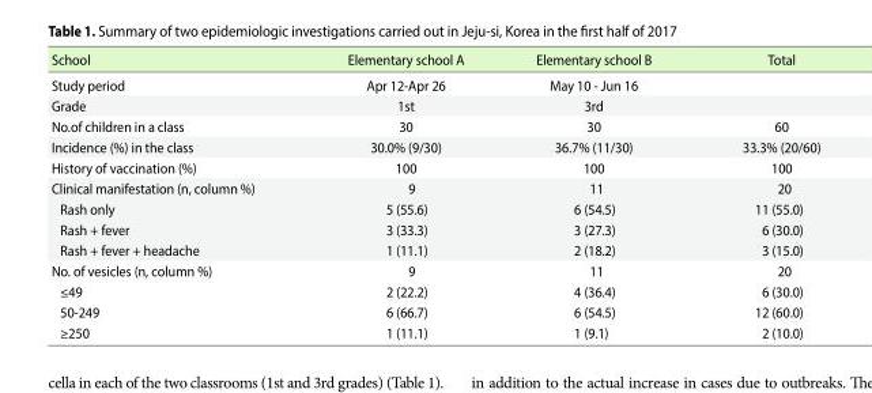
<table><thead><tr><td>School</td><td>Elementary school A</td><td>Elementary school B</td><td>Total</td></tr></thead><tbody><tr><td>Study period</td><td>Apr 12-Apr 26</td><td>May 10 - Jun 16</td><td></td></tr><tr><td>Grade</td><td>1st</td><td>3rd</td><td></td></tr><tr><td>No.of children in a class</td><td>30</td><td>30</td><td>60</td></tr><tr><td>Incidence (%) in the class</td><td>30.0% (9/30)</td><td>36.7% (11/30)</td><td>33.3% (20/60)</td></tr><tr><td>History of vaccination (%)</td><td>100</td><td>100</td><td>100</td></tr><tr><td>Clinical manifestation (n, column %)</td><td>9</td><td>11</td><td>20</td></tr><tr><td>Rash only</td><td>5 (55.6)</td><td>6 (54.5)</td><td>11 (55.0)</td></tr><tr><td>Rash + fever</td><td>3 (33.3)</td><td>3 (27.3)</td><td>6 (30.0)</td></tr><tr><td>Rash + fever + headache</td><td>1 (11.1)</td><td>2 (18.2)</td><td>3 (15.0)</td></tr><tr><td>No. of vesicles (n, column %)</td><td>9</td><td>11</td><td>20</td></tr><tr><td>≤49</td><td>2 (22.2)</td><td>4 (36.4)</td><td>6 (30.0)</td></tr><tr><td>50-249</td><td>6 (66.7)</td><td>6 (54.5)</td><td>12 (60.0)</td></tr><tr><td>≥250</td><td>1 (11.1)</td><td>1 (9.1)</td><td>2 (10.0)</td></tr></tbody></table>